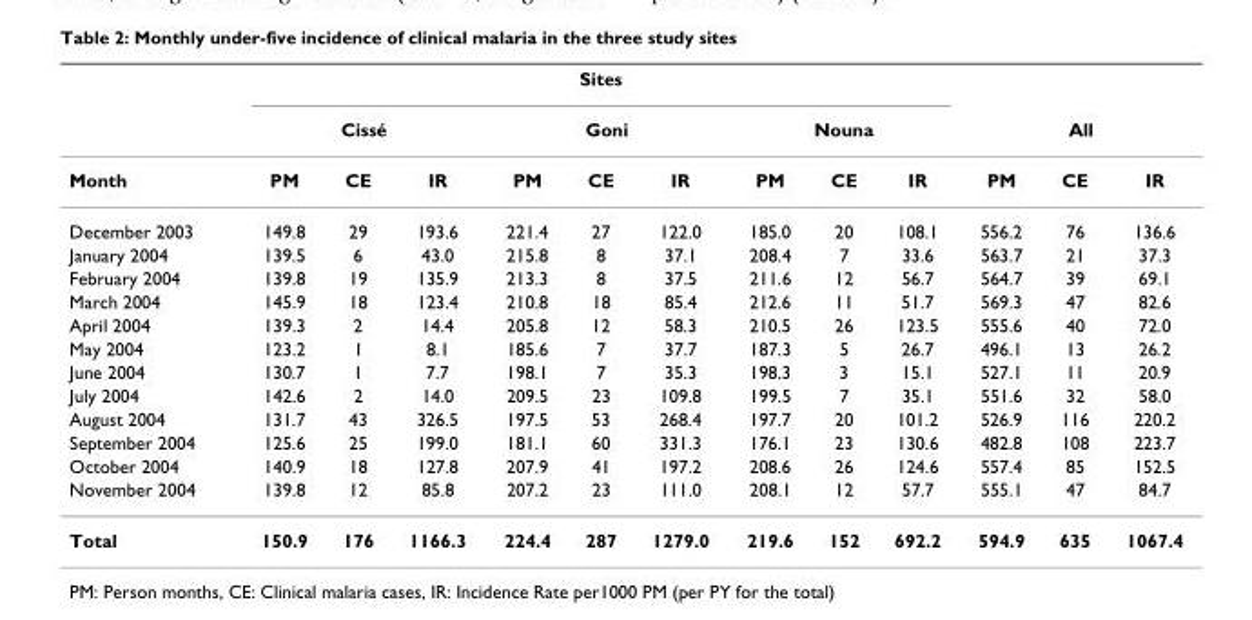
<table><thead><tr><td rowspan="3">Month</td><td colspan="9">Sites</td><td></td><td></td><td></td></tr><tr><td colspan="3">Cissé</td><td colspan="3">Goni</td><td colspan="3">Nouna</td><td colspan="3">All</td></tr><tr><td>PM</td><td>CE</td><td>IR</td><td>PM</td><td>CE</td><td>IR</td><td>PM</td><td>CE</td><td>IR</td><td>PM</td><td>CE</td><td>IR</td></tr></thead><tbody><tr><td>December 2003</td><td>149.8</td><td>29</td><td>193.6</td><td>221.4</td><td>27</td><td>122.0</td><td>185.0</td><td>20</td><td>108.1</td><td>556.2</td><td>76</td><td>136.6</td></tr><tr><td>January 2004</td><td>139.5</td><td>6</td><td>43.0</td><td>215.8</td><td>8</td><td>37.1</td><td>208.4</td><td>7</td><td>33.6</td><td>563.7</td><td>21</td><td>37.3</td></tr><tr><td>February 2004</td><td>139.8</td><td>19</td><td>135.9</td><td>213.3</td><td>8</td><td>37.5</td><td>211.6</td><td>12</td><td>56.7</td><td>564.7</td><td>39</td><td>69.1</td></tr><tr><td>March 2004</td><td>145.9</td><td>18</td><td>123.4</td><td>210.8</td><td>18</td><td>85.4</td><td>212.6</td><td>11</td><td>51.7</td><td>569.3</td><td>47</td><td>82.6</td></tr><tr><td>April 2004</td><td>139.3</td><td>2</td><td>14.4</td><td>205.8</td><td>12</td><td>58.3</td><td>210.5</td><td>26</td><td>123.5</td><td>555.6</td><td>40</td><td>72.0</td></tr><tr><td>May 2004</td><td>123.2</td><td>1</td><td>8.1</td><td>185.6</td><td>7</td><td>37.7</td><td>187.3</td><td>5</td><td>26.7</td><td>496.1</td><td>13</td><td>26.2</td></tr><tr><td>June 2004</td><td>130.7</td><td>1</td><td>7.7</td><td>198.1</td><td>7</td><td>35.3</td><td>198.3</td><td>3</td><td>15.1</td><td>527.1</td><td>11</td><td>20.9</td></tr><tr><td>July 2004</td><td>142.6</td><td>2</td><td>14.0</td><td>209.5</td><td>23</td><td>109.8</td><td>199.5</td><td>7</td><td>35.1</td><td>551.6</td><td>32</td><td>58.0</td></tr><tr><td>August 2004</td><td>131.7</td><td>43</td><td>326.5</td><td>197.5</td><td>53</td><td>268.4</td><td>197.7</td><td>20</td><td>101.2</td><td>526.9</td><td>116</td><td>220.2</td></tr><tr><td>September 2004</td><td>125.6</td><td>25</td><td>199.0</td><td>181.1</td><td>60</td><td>331.3</td><td>176.1</td><td>23</td><td>130.6</td><td>482.8</td><td>108</td><td>223.7</td></tr><tr><td>October 2004</td><td>140.9</td><td>18</td><td>127.8</td><td>207.9</td><td>41</td><td>197.2</td><td>208.6</td><td>26</td><td>124.6</td><td>557.4</td><td>85</td><td>152.5</td></tr><tr><td>November 2004</td><td>139.8</td><td>12</td><td>85.8</td><td>207.2</td><td>23</td><td>111.0</td><td>208.1</td><td>12</td><td>57.7</td><td>555.1</td><td>47</td><td>84.7</td></tr><tr><td>Total</td><td>150.9</td><td>176</td><td>1166.3</td><td>224.4</td><td>287</td><td>1279.0</td><td>219.6</td><td>152</td><td>692.2</td><td>594.9</td><td>635</td><td>1067.4</td></tr></tbody></table>